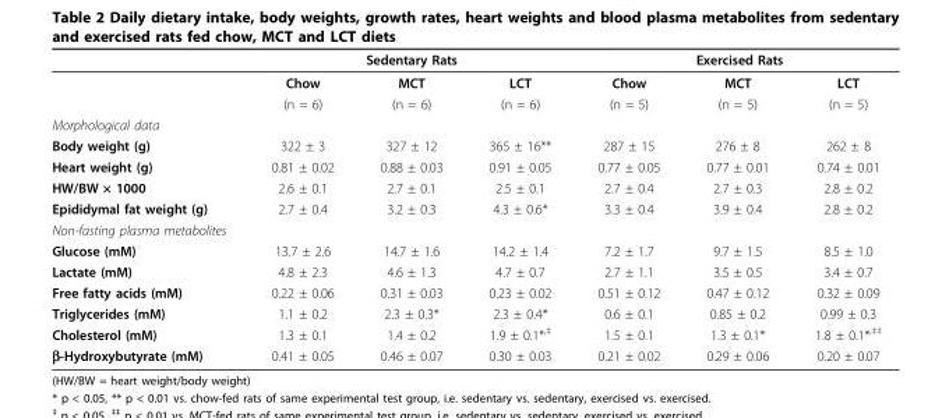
<table><thead><tr><td rowspan="2"></td><td colspan="3">Sedentary Rats</td><td colspan="3">Exercised Rats</td></tr><tr><td>Chow</td><td>MCT</td><td>LCT</td><td>Chow</td><td>MCT</td><td>LCT</td></tr></thead><tbody><tr><td></td><td>(n = 6)</td><td>(n = 6)</td><td>(n = 6)</td><td>(n = 5)</td><td>(n = 5)</td><td>(n = 5)</td></tr><tr><td colspan="7">Morphological data</td></tr><tr><td>Body weight (g)</td><td>322 ± 3</td><td>327 ± 12</td><td>365 ± 16**</td><td>287 ± 15</td><td>276 ± 8</td><td>262 ± 8</td></tr><tr><td>Heart weight (g)</td><td>0.81 ± 0.02</td><td>0.88 ± 0.03</td><td>0.91 ± 0.05</td><td>0.77 ± 0.05</td><td>0.77 ± 0.01</td><td>0.74 ± 0.01</td></tr><tr><td>HW/BW × 1000</td><td>2.6 ± 0.1</td><td>2.7 ± 0.1</td><td>2.5 ± 0.1</td><td>2.7 ± 0.4</td><td>2.7 ± 0.3</td><td>2.8 ± 0.2</td></tr><tr><td>Epididymal fat weight (g)</td><td>2.7 ± 0.4</td><td>3.2 ± 0.3</td><td>4.3 ± 0.6*</td><td>3.3 ± 0.4</td><td>3.9 ± 0.4</td><td>2.8 ± 0.2</td></tr><tr><td colspan="7">Non-fasting plasma metabolites</td></tr><tr><td>Glucose (mM)</td><td>13.7 ± 2.6</td><td>14.7 ± 1.6</td><td>14.2 ± 1.4</td><td>7.2 ± 1.7</td><td>9.7 ± 1.5</td><td>8.5 ± 1.0</td></tr><tr><td>Lactate (mM)</td><td>4.8 ± 2.3</td><td>4.6 ± 1.3</td><td>4.7 ± 0.7</td><td>2.7 ± 1.1</td><td>3.5 ± 0.5</td><td>3.4 ± 0.7</td></tr><tr><td>Free fatty acids (mM)</td><td>0.22 ± 0.06</td><td>0.31 ± 0.03</td><td>0.23 ± 0.02</td><td>0.51 ± 0.12</td><td>0.47 ± 0.12</td><td>0.32 ± 0.09</td></tr><tr><td>Triglycerides (mM)</td><td>1.1 ± 0.2</td><td>2.3 ± 0.3*</td><td>2.3 ± 0.4*</td><td>0.6 ± 0.1</td><td>0.85 ± 0.2</td><td>0.99 ± 0.3</td></tr><tr><td>Cholesterol (mM)</td><td>1.3 ± 0.1</td><td>1.4 ± 0.2</td><td>1.9 ± 0.1*<sup>,‡</sup></td><td>1.5 ± 0.1</td><td>1.3 ± 0.1*</td><td>1.8 ± 0.1*<sup>,‡‡</sup></td></tr><tr><td>β-Hydroxybutyrate (mM)</td><td>0.41 ± 0.05</td><td>0.46 ± 0.07</td><td>0.30 ± 0.03</td><td>0.21 ± 0.02</td><td>0.29 ± 0.06</td><td>0.20 ± 0.07</td></tr></tbody></table>